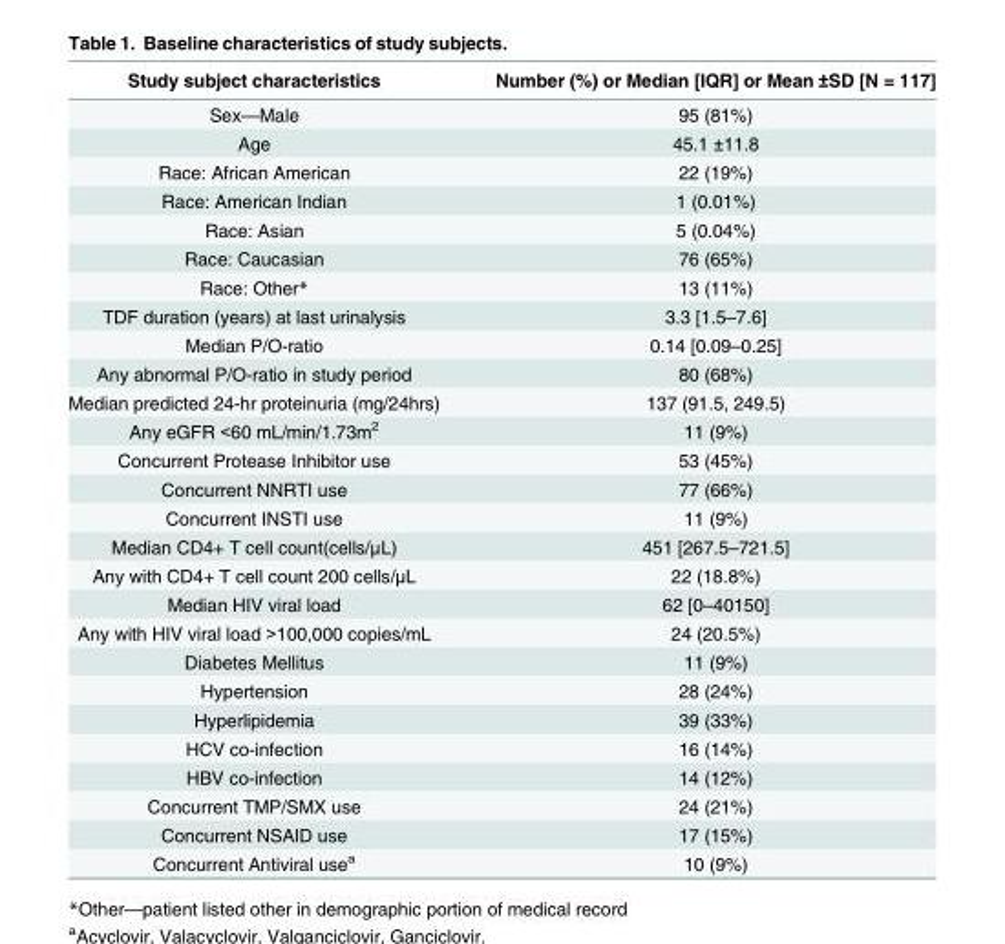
<table><thead><tr><td>Study subject characteristics</td><td>Number (%) or Median [IQR] or Mean ±SD [N = 117]</td></tr></thead><tbody><tr><td>Sex—Male</td><td>95 (81%)</td></tr><tr><td>Age</td><td>45.1 ±11.8</td></tr><tr><td>Race: African American</td><td>22 (19%)</td></tr><tr><td>Race: American Indian</td><td>1 (0.01%)</td></tr><tr><td>Race: Asian</td><td>5 (0.04%)</td></tr><tr><td>Race: Caucasian</td><td>76 (65%)</td></tr><tr><td>Race: Other*</td><td>13 (11%)</td></tr><tr><td>TDF duration (years) at last urinalysis</td><td>3.3 [1.5–7.6]</td></tr><tr><td>Median P/O-ratio</td><td>0.14 [0.09–0.25]</td></tr><tr><td>Any abnormal P/O-ratio in study period</td><td>80 (68%)</td></tr><tr><td>Median predicted 24-hr proteinuria (mg/24hrs)</td><td>137 (91.5, 249.5)</td></tr><tr><td>Any eGFR &lt;60 mL/min/1.73m<sup>2</sup></td><td>11 (9%)</td></tr><tr><td>Concurrent Protease Inhibitor use</td><td>53 (45%)</td></tr><tr><td>Concurrent NNRTI use</td><td>77 (66%)</td></tr><tr><td>Concurrent INSTI use</td><td>11 (9%)</td></tr><tr><td>Median CD4+ T cell count(cells/μL)</td><td>451 [267.5–721.5]</td></tr><tr><td>Any with CD4+ T cell count 200 cells/μL</td><td>22 (18.8%)</td></tr><tr><td>Median HIV viral load</td><td>62 [0–40150]</td></tr><tr><td>Any with HIV viral load &gt;100,000 copies/mL</td><td>24 (20.5%)</td></tr><tr><td>Diabetes Mellitus</td><td>11 (9%)</td></tr><tr><td>Hypertension</td><td>28 (24%)</td></tr><tr><td>Hyperlipidemia</td><td>39 (33%)</td></tr><tr><td>HCV co-infection</td><td>16 (14%)</td></tr><tr><td>HBV co-infection</td><td>14 (12%)</td></tr><tr><td>Concurrent TMP/SMX use</td><td>24 (21%)</td></tr><tr><td>Concurrent NSAID use</td><td>17 (15%)</td></tr><tr><td>Concurrent Antiviral use<sup>a</sup></td><td>10 (9%)</td></tr></tbody></table>